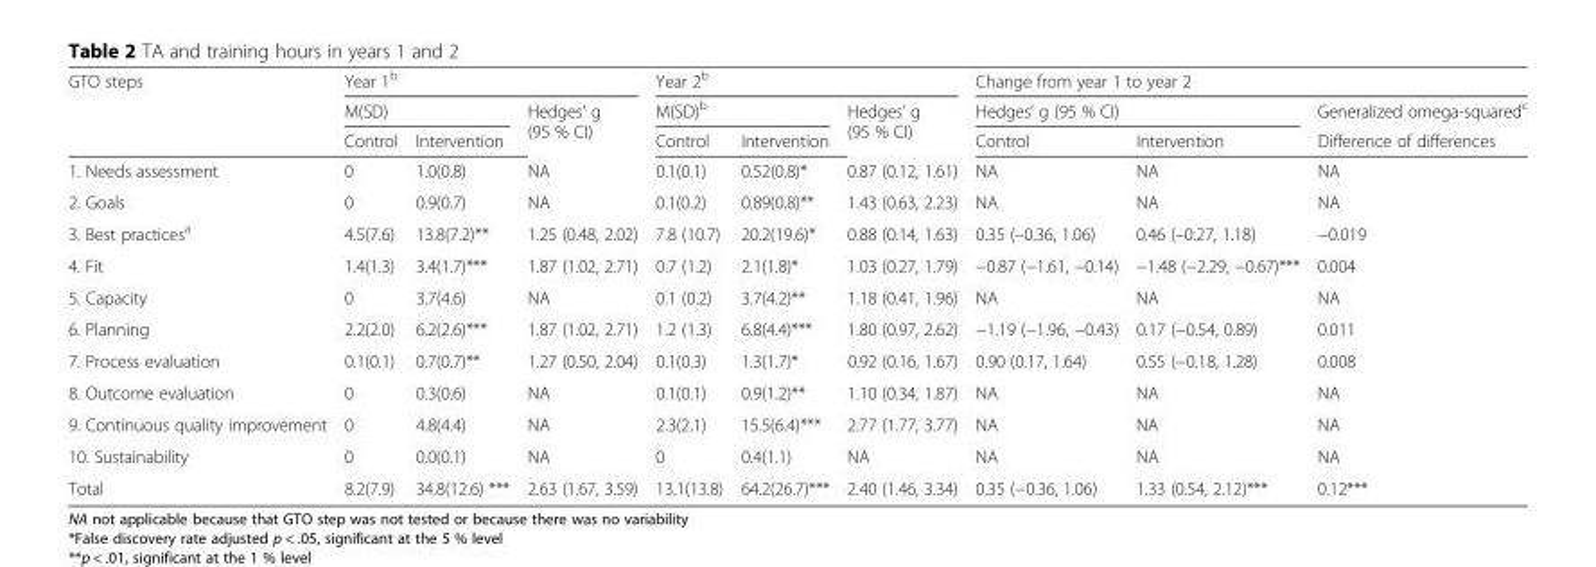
<table><thead><tr><td rowspan="3">GTO steps</td><td colspan="3">Year 1<sup>b</sup></td><td colspan="3">Year 2<sup>b</sup></td><td colspan="3">Change from year 1 to year 2</td></tr><tr><td colspan="2">M(SD)</td><td rowspan="2">Hedges’ g (95 % CI)</td><td colspan="2">M(SD)<sup>b</sup></td><td rowspan="2">Hedges’ g (95 % CI)</td><td colspan="2">Hedges’ g (95 % CI)</td><td rowspan="2">Generalized omega-squared<sup>c</sup> Difference of differences</td></tr><tr><td>Control</td><td>Intervention</td><td>Control</td><td>Intervention</td><td>Control</td><td>Intervention</td></tr></thead><tbody><tr><td>1. Needs assessment</td><td>0</td><td>1.0(0.8)</td><td>NA</td><td>0.1(0.1)</td><td>0.52(0.8)*</td><td>0.87 (0.12, 1.61)</td><td>NA</td><td>NA</td><td>NA</td></tr><tr><td>2. Goals</td><td>0</td><td>0.9(0.7)</td><td>NA</td><td>0.1(0.2)</td><td>0.89(0.8)**</td><td>1.43 (0.63, 2.23)</td><td>NA</td><td>NA</td><td>NA</td></tr><tr><td>3. Best practices<sup>a</sup></td><td>4.5(7.6)</td><td>13.8(7.2)**</td><td>1.25 (0.48, 2.02)</td><td>7.8 (10.7)</td><td>20.2(19.6)*</td><td>0.88 (0.14, 1.63)</td><td>0.35 (–0.36, 1.06)</td><td>0.46 (–0.27, 1.18)</td><td>−0.019</td></tr><tr><td>4. Fit</td><td>1.4(1.3)</td><td>3.4(1.7)***</td><td>1.87 (1.02, 2.71)</td><td>0.7 (1.2)</td><td>2.1(1.8)*</td><td>1.03 (0.27, 1.79)</td><td>−0.87 (−1.61, −0.14)</td><td>−1.48 (−2.29, −0.67)***</td><td>0.004</td></tr><tr><td>5. Capacity</td><td>0</td><td>3.7(4.6)</td><td>NA</td><td>0.1 (0.2)</td><td>3.7(4.2)**</td><td>1.18 (0.41, 1.96)</td><td>NA</td><td>NA</td><td>NA</td></tr><tr><td>6. Planning</td><td>2.2(2.0)</td><td>6.2(2.6)***</td><td>1.87 (1.02, 2.71)</td><td>1.2 (1.3)</td><td>6.8(4.4)***</td><td>1.80 (0.97, 2.62)</td><td>−1.19 (−1.96, −0.43)</td><td>0.17 (−0.54, 0.89)</td><td>0.011</td></tr><tr><td>7. Process evaluation</td><td>0.1(0.1)</td><td>0.7(0.7)**</td><td>1.27 (0.50, 2.04)</td><td>0.1(0.3)</td><td>1.3(1.7)*</td><td>0.92 (0.16, 1.67)</td><td>0.90 (0.17, 1.64)</td><td>0.55 (−0.18, 1.28)</td><td>0.008</td></tr><tr><td>8. Outcome evaluation</td><td>0</td><td>0.3(0.6)</td><td>NA</td><td>0.1(0.1)</td><td>0.9(1.2)**</td><td>1.10 (0.34, 1.87)</td><td>NA</td><td>NA</td><td>NA</td></tr><tr><td>9. Continuous quality improvement</td><td>0</td><td>4.8(4.4)</td><td>NA</td><td>2.3(2.1)</td><td>15.5(6.4)***</td><td>2.77 (1.77, 3.77)</td><td>NA</td><td>NA</td><td>NA</td></tr><tr><td>10. Sustainability</td><td>0</td><td>0.0(0.1)</td><td>NA</td><td>0</td><td>0.4(1.1)</td><td>NA</td><td>NA</td><td>NA</td><td>NA</td></tr><tr><td>Total</td><td>8.2(7.9)</td><td>34.8(12.6) ***</td><td>2.63 (1.67, 3.59)</td><td>13.1(13.8)</td><td>64.2(26.7)***</td><td>2.40 (1.46, 3.34)</td><td>0.35 (−0.36, 1.06)</td><td>1.33 (0.54, 2.12)***</td><td>0.12***</td></tr></tbody></table>